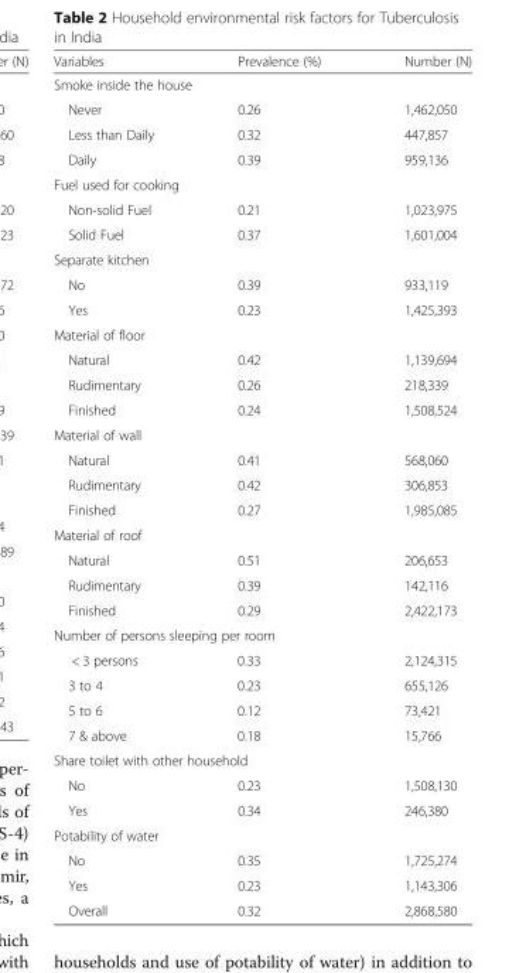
<table><thead><tr><td>Variables</td><td>Prevalence (%)</td><td>Number (N)</td></tr></thead><tbody><tr><td colspan="3">Smoke inside the house</td></tr><tr><td>Never</td><td>0.26</td><td>1,462,050</td></tr><tr><td>Less than Daily</td><td>0.32</td><td>447,857</td></tr><tr><td>Daily</td><td>0.39</td><td>959,136</td></tr><tr><td colspan="3">Fuel used for cooking</td></tr><tr><td>Non-solid Fuel</td><td>0.21</td><td>1,023,975</td></tr><tr><td>Solid Fuel</td><td>0.37</td><td>1,601,004</td></tr><tr><td colspan="3">Separate kitchen</td></tr><tr><td>No</td><td>0.39</td><td>933,119</td></tr><tr><td>Yes</td><td>0.23</td><td>1,425,393</td></tr><tr><td colspan="3">Material of floor</td></tr><tr><td>Natural</td><td>0.42</td><td>1,139,694</td></tr><tr><td>Rudimentary</td><td>0.26</td><td>218,339</td></tr><tr><td>Finished</td><td>0.24</td><td>1,508,524</td></tr><tr><td colspan="3">Material of wall</td></tr><tr><td>Natural</td><td>0.41</td><td>568,060</td></tr><tr><td>Rudimentary</td><td>0.42</td><td>306,853</td></tr><tr><td>Finished</td><td>0.27</td><td>1,985,085</td></tr><tr><td colspan="3">Material of roof</td></tr><tr><td>Natural</td><td>0.51</td><td>206,653</td></tr><tr><td>Rudimentary</td><td>0.39</td><td>142,116</td></tr><tr><td>Finished</td><td>0.29</td><td>2,422,173</td></tr><tr><td colspan="3">Number of persons sleeping per room</td></tr><tr><td>&lt; 3 persons</td><td>0.33</td><td>2,124,315</td></tr><tr><td>3 to 4</td><td>0.23</td><td>655,126</td></tr><tr><td>5 to 6</td><td>0.12</td><td>73,421</td></tr><tr><td>7 &amp; above</td><td>0.18</td><td>15,766</td></tr><tr><td colspan="3">Share toilet with other household</td></tr><tr><td>No</td><td>0.23</td><td>1,508,130</td></tr><tr><td>Yes</td><td>0.34</td><td>246,380</td></tr><tr><td colspan="3">Potability of water</td></tr><tr><td>No</td><td>0.35</td><td>1,725,274</td></tr><tr><td>Yes</td><td>0.23</td><td>1,143,306</td></tr><tr><td>Overall</td><td>0.32</td><td>2,868,580</td></tr></tbody></table>